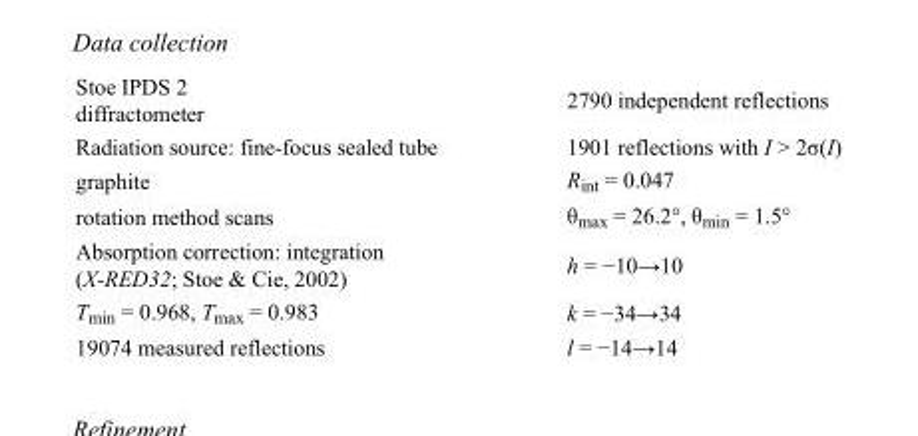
<table><tbody><tr><td>Stoe IPDS 2 diffractometer</td><td>2790 independent reflections</td></tr><tr><td>Radiation source: fine-focus sealed tube</td><td>1901 reflections with I &gt; 2σ(I)</td></tr><tr><td>graphite</td><td>R<sub>int</sub> = 0.047</td></tr><tr><td>rotation method scans</td><td>θ<sub>max</sub> = 26.2°, θ<sub>min</sub> = 1.5°</td></tr><tr><td>Absorption correction: integration (X-RED32; Stoe &amp; Cie, 2002)</td><td>h = −10→10</td></tr><tr><td>T<sub>min</sub> = 0.968, T<sub>max</sub> = 0.983</td><td>k = −34→34</td></tr><tr><td>19074 measured reflections</td><td>l = −14→14</td></tr></tbody></table>